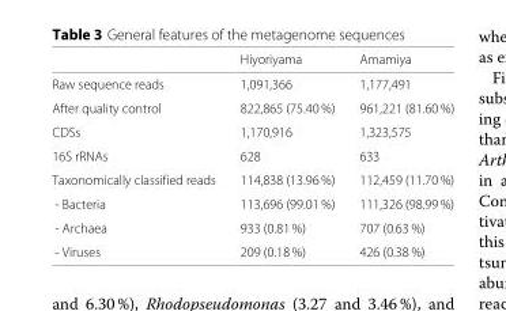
<table><thead><tr><td></td><td>Hiyoriyama</td><td>Amamiya</td></tr></thead><tbody><tr><td>Raw sequence reads</td><td>1,091,366</td><td>1,177,491</td></tr><tr><td>After quality control</td><td>822,865 (75.40 %)</td><td>961,221 (81.60 %)</td></tr><tr><td>CDSs</td><td>1,170,916</td><td>1,323,575</td></tr><tr><td>16S rRNAs</td><td>628</td><td>633</td></tr><tr><td>Taxonomically classified reads</td><td>114,838 (13.96 %)</td><td>112,459 (11.70 %)</td></tr><tr><td>- Bacteria</td><td>113,696 (99.01 %)</td><td>111,326 (98.99 %)</td></tr><tr><td>- Archaea</td><td>933 (0.81 %)</td><td>707 (0.63 %)</td></tr><tr><td>- Viruses</td><td>209 (0.18 %)</td><td>426 (0.38 %)</td></tr></tbody></table>